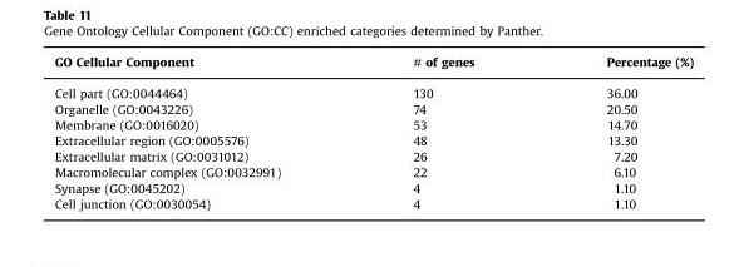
<table><thead><tr><td>GO Cellular Component</td><td># of genes</td><td>Percentage (%)</td></tr></thead><tbody><tr><td>Cell part (GO:0044464)</td><td>130</td><td>36.00</td></tr><tr><td>Organelle (GO:0043226)</td><td>74</td><td>20.50</td></tr><tr><td>Membrane (GO:0016020)</td><td>53</td><td>14.70</td></tr><tr><td>Extracellular region (GO:0005576)</td><td>48</td><td>13.30</td></tr><tr><td>Extracellular matrix (GO:0031012)</td><td>26</td><td>7.20</td></tr><tr><td>Macromolecular complex (GO:0032991)</td><td>22</td><td>6.10</td></tr><tr><td>Synapse (GO:0045202)</td><td>4</td><td>1.10</td></tr><tr><td>Cell junction (GO:0030054)</td><td>4</td><td>1.10</td></tr></tbody></table>